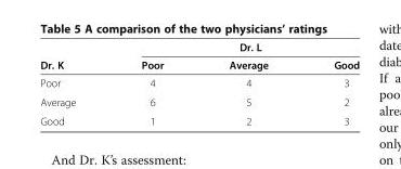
<table><thead><tr><td rowspan="2">Dr. K</td><td colspan="3">Dr. L</td></tr><tr><td>Poor</td><td>Average</td><td>Good</td></tr></thead><tbody><tr><td>Poor</td><td>4</td><td>4</td><td>3</td></tr><tr><td>Average</td><td>6</td><td>5</td><td>2</td></tr><tr><td>Good</td><td>1</td><td>2</td><td>3</td></tr></tbody></table>